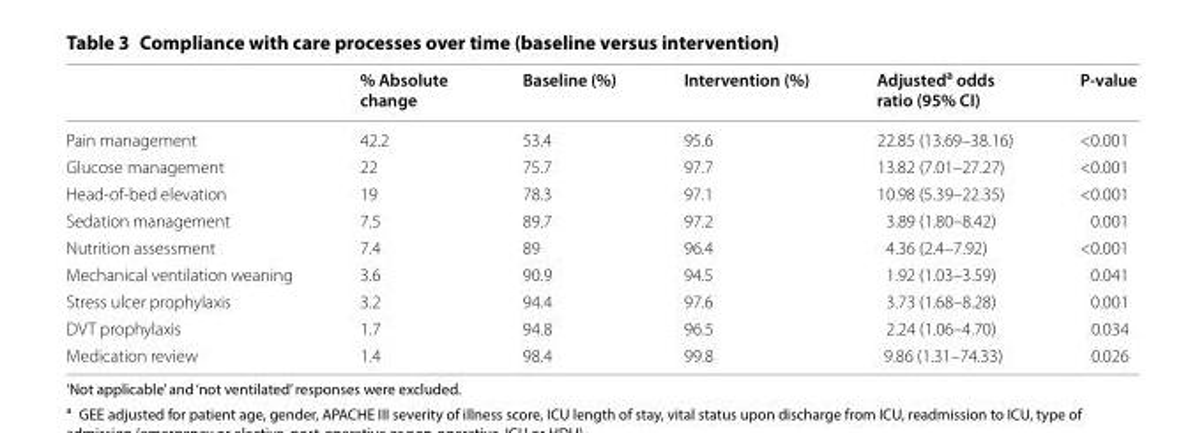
<table><thead><tr><td></td><td>% Absolute change</td><td>Baseline (%)</td><td>Intervention (%)</td><td>Adjusted<sup>a</sup> odds ratio (95% CI)</td><td>P-value</td></tr></thead><tbody><tr><td>Pain management</td><td>42.2</td><td>53.4</td><td>95.6</td><td>22.85 (13.69–38.16)</td><td>&lt;0.001</td></tr><tr><td>Glucose management</td><td>22</td><td>75.7</td><td>97.7</td><td>13.82 (7.01–27.27)</td><td>&lt;0.001</td></tr><tr><td>Head-of-bed elevation</td><td>19</td><td>78.3</td><td>97.1</td><td>10.98 (5.39–22.35)</td><td>&lt;0.001</td></tr><tr><td>Sedation management</td><td>7.5</td><td>89.7</td><td>97.2</td><td>3.89 (1.80–8.42)</td><td>0.001</td></tr><tr><td>Nutrition assessment</td><td>7.4</td><td>89</td><td>96.4</td><td>4.36 (2.4–7.92)</td><td>&lt;0.001</td></tr><tr><td>Mechanical ventilation weaning</td><td>3.6</td><td>90.9</td><td>94.5</td><td>1.92 (1.03–3.59)</td><td>0.041</td></tr><tr><td>Stress ulcer prophylaxis</td><td>3.2</td><td>94.4</td><td>97.6</td><td>3.73 (1.68–8.28)</td><td>0.001</td></tr><tr><td>DVT prophylaxis</td><td>1.7</td><td>94.8</td><td>96.5</td><td>2.24 (1.06–4.70)</td><td>0.034</td></tr><tr><td>Medication review</td><td>1.4</td><td>98.4</td><td>99.8</td><td>9.86 (1.31–74.33)</td><td>0.026</td></tr></tbody></table>